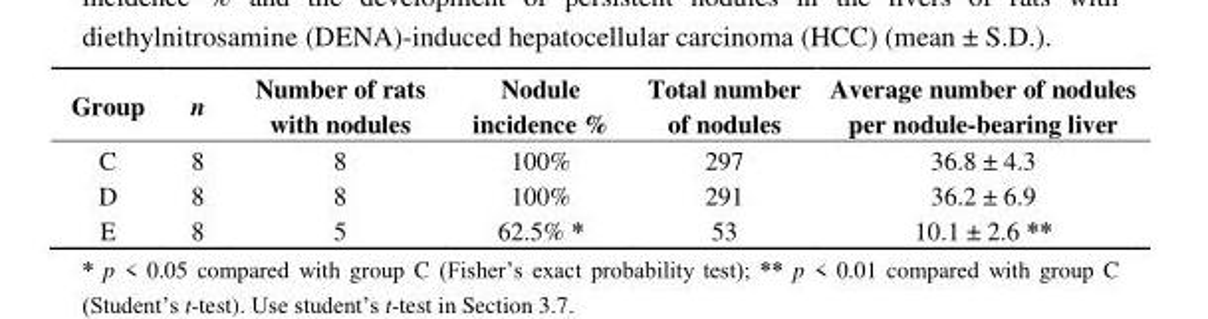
<table><thead><tr><td>Group</td><td>n</td><td>Number of rats with nodules</td><td>Nodule incidence %</td><td>Total number of nodules</td><td>Average number of nodules per nodule-bearing liver</td></tr></thead><tbody><tr><td>C</td><td>8</td><td>8</td><td>100%</td><td>297</td><td>36.8 ± 4.3</td></tr><tr><td>D</td><td>8</td><td>8</td><td>100%</td><td>291</td><td>36.2 ± 6.9</td></tr><tr><td>E</td><td>8</td><td>5</td><td>62.5% *</td><td>53</td><td>10.1 ± 2.6 **</td></tr></tbody></table>